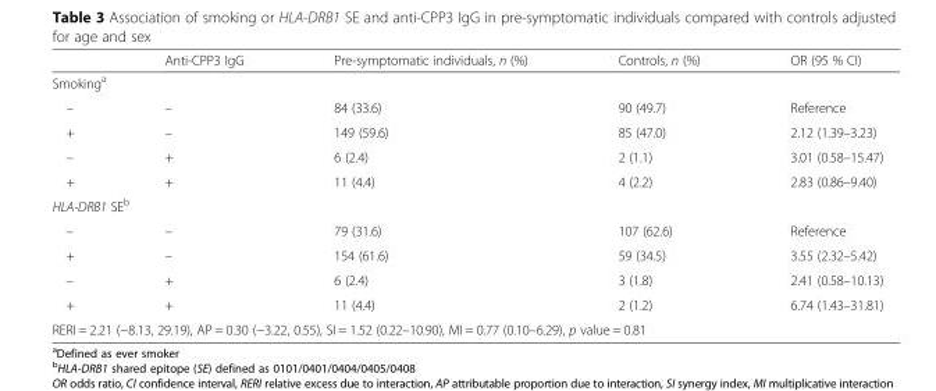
<table><thead><tr><td></td><td>Anti-CPP3 IgG</td><td>Pre-symptomatic individuals, n (%)</td><td>Controls, n (%)</td><td>OR (95 % CI)</td></tr></thead><tbody><tr><td colspan="5">Smoking<sup>a</sup></td></tr><tr><td>–</td><td>–</td><td>84 (33.6)</td><td>90 (49.7)</td><td>Reference</td></tr><tr><td>+</td><td>–</td><td>149 (59.6)</td><td>85 (47.0)</td><td>2.12 (1.39–3.23)</td></tr><tr><td>–</td><td>+</td><td>6 (2.4)</td><td>2 (1.1)</td><td>3.01 (0.58–15.47)</td></tr><tr><td>+</td><td>+</td><td>11 (4.4)</td><td>4 (2.2)</td><td>2.83 (0.86–9.40)</td></tr><tr><td colspan="5">HLA-DRB1 SE<sup>b</sup></td></tr><tr><td>–</td><td>–</td><td>79 (31.6)</td><td>107 (62.6)</td><td>Reference</td></tr><tr><td>+</td><td>–</td><td>154 (61.6)</td><td>59 (34.5)</td><td>3.55 (2.32–5.42)</td></tr><tr><td>–</td><td>+</td><td>6 (2.4)</td><td>3 (1.8)</td><td>2.41 (0.58–10.13)</td></tr><tr><td>+</td><td>+</td><td>11 (4.4)</td><td>2 (1.2)</td><td>6.74 (1.43–31.81)</td></tr><tr><td colspan="5">RERI = 2.21 (−8.13, 29.19), AP = 0.30 (−3.22, 0.55), SI = 1.52 (0.22–10.90), MI = 0.77 (0.10–6.29), p value = 0.81</td></tr></tbody></table>